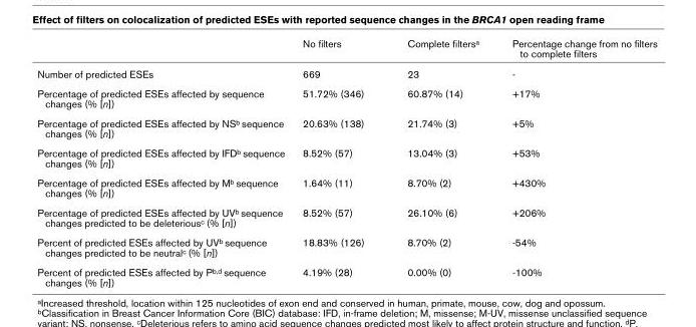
<table><thead><tr><td></td><td>No filters</td><td>Complete filtersa</td><td>Percentage change from no filters to complete filters</td></tr></thead><tbody><tr><td>Number of predicted ESEs</td><td>669</td><td>23</td><td>-</td></tr><tr><td>Percentage of predicted ESEs affected by sequence changes (% [n])</td><td>51.72% (346)</td><td>60.87% (14)</td><td>+17%</td></tr><tr><td>Percentage of predicted ESEs affected by NSb sequence changes (% [n])</td><td>20.63% (138)</td><td>21.74% (3)</td><td>+5%</td></tr><tr><td>Percentage of predicted ESEs affected by IFDb sequence changes (% [n])</td><td>8.52% (57)</td><td>13.04% (3)</td><td>+53%</td></tr><tr><td>Percentage of predicted ESEs affected by Mb sequence changes (% [n])</td><td>1.64% (11)</td><td>8.70% (2)</td><td>+430%</td></tr><tr><td>Percentage of predicted ESEs affected by UVb sequence changes predicted to be deleteriousc (% [n])</td><td>8.52% (57)</td><td>26.10% (6)</td><td>+206%</td></tr><tr><td>Percent of predicted ESEs affected by UVb sequence changes predicted to be neutralc (% [n])</td><td>18.83% (126)</td><td>8.70% (2)</td><td>-54%</td></tr><tr><td>Percent of predicted ESEs affected by Pb,d sequence changes (% [n])</td><td>4.19% (28)</td><td>0.00% (0)</td><td>-100%</td></tr></tbody></table>